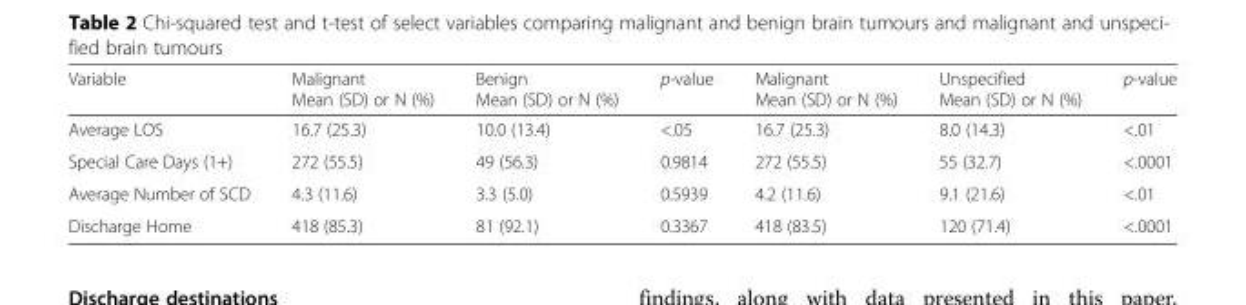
<table><thead><tr><td>Variable</td><td>Malignant Mean (SD) or N (%)</td><td>Benign Mean (SD) or N (%)</td><td>p-value</td><td>Malignant Mean (SD) or N (%)</td><td>Unspecified Mean (SD) or N (%)</td><td>p-value</td></tr></thead><tbody><tr><td>Average LOS</td><td>16.7 (25.3)</td><td>10.0 (13.4)</td><td>&lt;.05</td><td>16.7 (25.3)</td><td>8.0 (14.3)</td><td>&lt;.01</td></tr><tr><td>Special Care Days (1+)</td><td>272 (55.5)</td><td>49 (56.3)</td><td>0.9814</td><td>272 (55.5)</td><td>55 (32.7)</td><td>&lt;.0001</td></tr><tr><td>Average Number of SCD</td><td>4.3 (11.6)</td><td>3.3 (5.0)</td><td>0.5939</td><td>4.2 (11.6)</td><td>9.1 (21.6)</td><td>&lt;.01</td></tr><tr><td>Discharge Home</td><td>418 (85.3)</td><td>81 (92.1)</td><td>0.3367</td><td>418 (83.5)</td><td>120 (71.4)</td><td>&lt;.0001</td></tr></tbody></table>